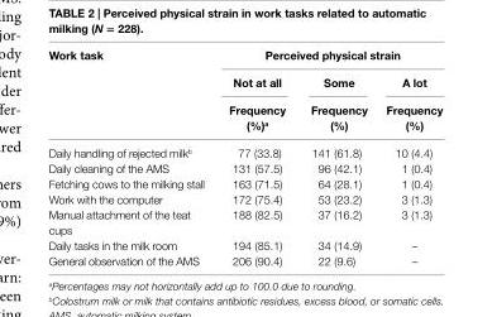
<table><thead><tr><td rowspan="3">Work task</td><td colspan="3">Perceived physical strain</td></tr><tr><td rowspan="2">not at all Frequency (%)<sup>a</sup></td><td rowspan="2">some Frequency (%)</td><td rowspan="2">a lot Frequency (%)</td></tr><tr></tr></thead><tbody><tr><td>Daily handling of rejected milk<sup>b</sup></td><td>77 (33.8)</td><td>141 (61.8)</td><td>10 (4.4)</td></tr><tr><td>Daily cleaning of the AMS</td><td>131 (57.5)</td><td>96 (42.1)</td><td>1 (0.4)</td></tr><tr><td>Fetching cows to the milking stall</td><td>163 (71.5)</td><td>64 (28.1)</td><td>1 (0.4)</td></tr><tr><td>Work with the computer</td><td>172 (75.4)</td><td>53 (23.2)</td><td>3 (1.3)</td></tr><tr><td>Manual attachment of the teat cups</td><td>188 (82.5)</td><td>37 (16.2)</td><td>3 (1.3)</td></tr><tr><td>Daily tasks in the milk room</td><td>194 (85.1)</td><td>34 (14.9)</td><td>–</td></tr><tr><td>General observation of the AMS</td><td>206 (90.4)</td><td>22 (9.6)</td><td>–</td></tr></tbody></table>